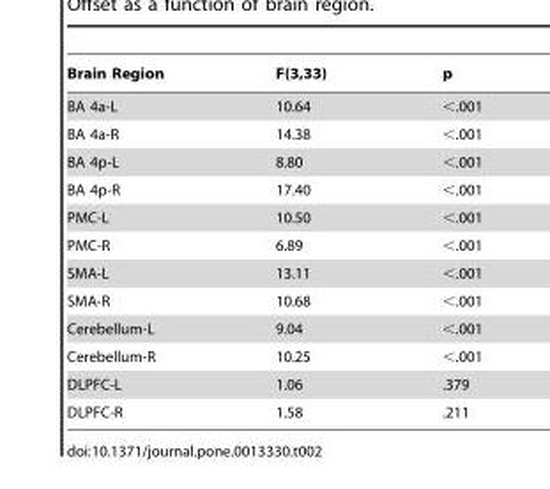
<table><thead><tr><td>Brain Region</td><td>F(3,33)</td><td>p</td></tr></thead><tbody><tr><td>BA 4a-L</td><td>10.64</td><td>&lt;.001</td></tr><tr><td>BA 4a-R</td><td>14.38</td><td>&lt;.001</td></tr><tr><td>BA 4p-L</td><td>8.80</td><td>&lt;.001</td></tr><tr><td>BA 4p-R</td><td>17.40</td><td>&lt;.001</td></tr><tr><td>PMC-L</td><td>10.50</td><td>&lt;.001</td></tr><tr><td>PMC-R</td><td>6.89</td><td>&lt;.001</td></tr><tr><td>SMA-L</td><td>13.11</td><td>&lt;.001</td></tr><tr><td>SMA-R</td><td>10.68</td><td>&lt;.001</td></tr><tr><td>Cerebellum-L</td><td>9.04</td><td>&lt;.001</td></tr><tr><td>Cerebellum-R</td><td>10.25</td><td>&lt;.001</td></tr><tr><td>DLPFC-L</td><td>1.06</td><td>.379</td></tr><tr><td>DLPFC-R</td><td>1.58</td><td>.211</td></tr></tbody></table>